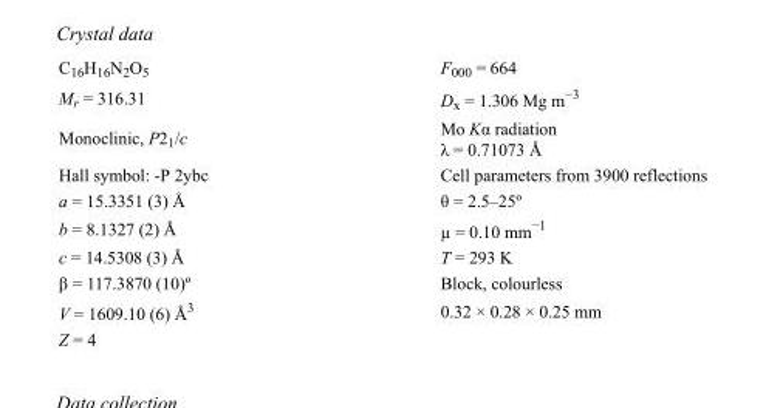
<table><tbody><tr><td>C<sub>16</sub>H<sub>16</sub>N<sub>2</sub>O<sub>5</sub></td><td>F000 = 664</td></tr><tr><td>M<sub>r</sub> = 316.31</td><td>D<sub>x</sub> = 1.306 Mg m<sup>−3</sup></td></tr><tr><td>Monoclinic, P2<sub>1</sub>/c</td><td>Mo Kα radiation λ = 0.71073 Å</td></tr><tr><td>Hall symbol: -P 2ybc</td><td>Cell parameters from 3900 reflections</td></tr><tr><td>a = 15.3351 (3) Å</td><td>θ = 2.5–25º</td></tr><tr><td>b = 8.1327 (2) Å</td><td>µ = 0.10 mm<sup>−1</sup></td></tr><tr><td>c = 14.5308 (3) Å</td><td>T = 293 K</td></tr><tr><td>β = 117.3870 (10)º</td><td>Block, colourless</td></tr><tr><td>V = 1609.10 (6) Å<sup>3</sup></td><td>0.32 × 0.28 × 0.25 mm</td></tr><tr><td>Z = 4</td><td></td></tr></tbody></table>